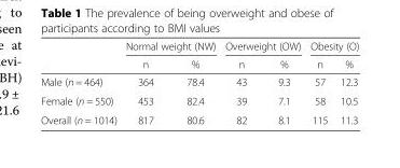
<table><thead><tr><td rowspan="2"></td><td colspan="2">Normal weight (NW)</td><td colspan="2">Overweight (OW)</td><td colspan="2">Obesity (O)</td></tr><tr><td>n</td><td>%</td><td>n</td><td>%</td><td>n</td><td>%</td></tr></thead><tbody><tr><td>Male (n = 464)</td><td>364</td><td>78.4</td><td>43</td><td>9.3</td><td>57</td><td>12.3</td></tr><tr><td>Female (n = 550)</td><td>453</td><td>82.4</td><td>39</td><td>7.1</td><td>58</td><td>10.5</td></tr><tr><td>Overall (n = 1014)</td><td>817</td><td>80.6</td><td>82</td><td>8.1</td><td>115</td><td>11.3</td></tr></tbody></table>